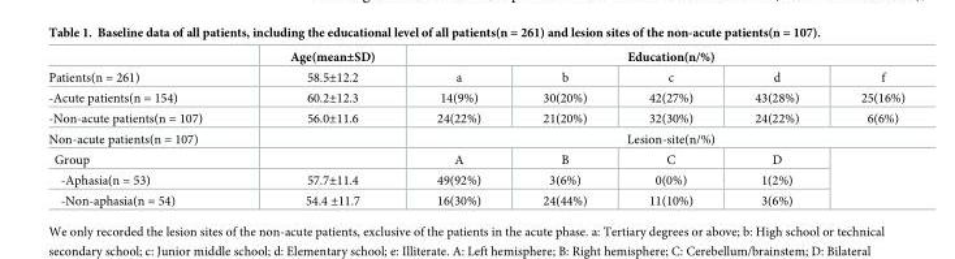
<table><thead><tr><td rowspan="2">Patients(n = 261)</td><td rowspan="2">Age(mean±SD) 58.5±12.2</td><td colspan="5">Education(n/%)</td></tr><tr><td>a</td><td>b</td><td>c</td><td>d</td><td>f</td></tr></thead><tbody><tr><td>-Acute patients(n = 154)</td><td>60.2±12.3</td><td>14(9%)</td><td>30(20%)</td><td>42(27%)</td><td>43(28%)</td><td>25(16%)</td></tr><tr><td>-Non-acute patients(n = 107)</td><td>56.0±11.6</td><td>24(22%)</td><td>21(20%)</td><td>32(30%)</td><td>24(22%)</td><td>6(6%)</td></tr><tr><td>Non-acute patients(n = 107)</td><td></td><td colspan="5">Lesion-site(n/%)</td></tr><tr><td>Group</td><td></td><td>A</td><td>B</td><td>C</td><td>D</td><td rowspan="3"></td></tr><tr><td>-Aphasia(n = 53)</td><td>57.7±11.4</td><td>49(92%)</td><td>3(6%)</td><td>0(0%)</td><td>1(2%)</td></tr><tr><td>-Non-aphasia(n = 54)</td><td>54.4 ±11.7</td><td>16(30%)</td><td>24(44%)</td><td>11(10%)</td><td>3(6%)</td></tr></tbody></table>